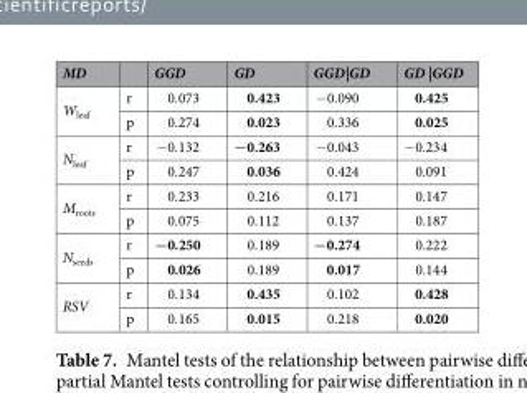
<table><thead><tr><td>MD</td><td></td><td>GGD</td><td>GD</td><td>GGD|GD</td><td>GD |GGD</td></tr></thead><tbody><tr><td rowspan="2">W<sub>leaf</sub></td><td>r</td><td>0.073</td><td>0.423</td><td>−0.090</td><td>0.425</td></tr><tr><td>p</td><td>0.274</td><td>0.023</td><td>0.336</td><td>0.025</td></tr><tr><td rowspan="2">N<sub>leaf</sub></td><td>r</td><td>−0.132</td><td>−0.263</td><td>−0.043</td><td>−0.234</td></tr><tr><td>p</td><td>0.247</td><td>0.036</td><td>0.424</td><td>0.091</td></tr><tr><td rowspan="2">M<sub>roots</sub></td><td>r</td><td>0.233</td><td>0.216</td><td>0.171</td><td>0.147</td></tr><tr><td>p</td><td>0.075</td><td>0.112</td><td>0.137</td><td>0.187</td></tr><tr><td rowspan="2">N<sub>seeds</sub></td><td>r</td><td>−0.250</td><td>0.189</td><td>−0.274</td><td>0.222</td></tr><tr><td>p</td><td>0.026</td><td>0.189</td><td>0.017</td><td>0.144</td></tr><tr><td rowspan="2">RSV</td><td>r</td><td>0.134</td><td>0.435</td><td>0.102</td><td>0.428</td></tr><tr><td>p</td><td>0.165</td><td>0.015</td><td>0.218</td><td>0.020</td></tr></tbody></table>